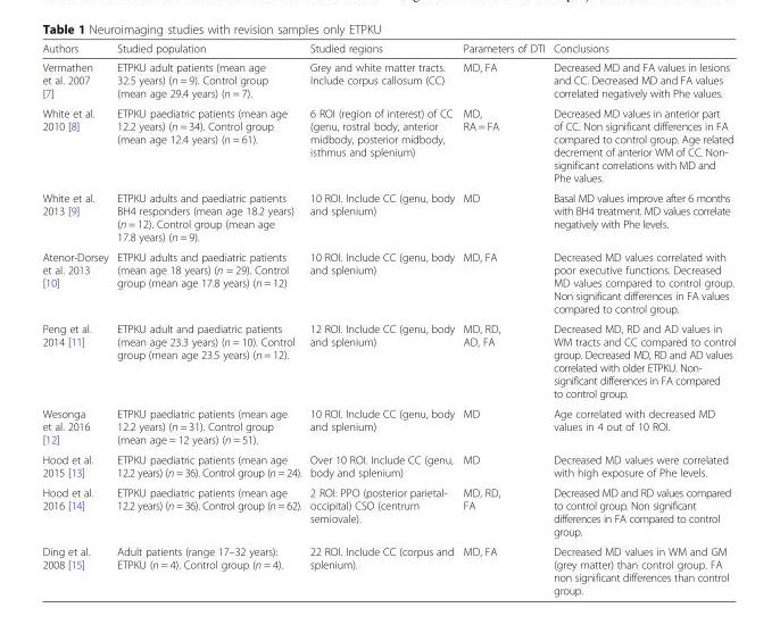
<table><thead><tr><td>Authors</td><td>Studied population</td><td>Studied regions</td><td>Parameters of DTI</td><td>Conclusions</td></tr></thead><tbody><tr><td>Vermathen et al. 2007 [7]</td><td>ETPKU adult patients (mean age 32.5 years) (n = 9). Control group (mean age 29.4 years) (n = 7).</td><td>Grey and white matter tracts. Include corpus callosum (CC)</td><td>MD, FA</td><td>Decreased MD and FA values in lesions and CC. Decreased MD and FA values correlated negatively with Phe values.</td></tr><tr><td>White et al. 2010 [8]</td><td>ETPKU paediatric patients (mean age 12.2 years) (n = 34). Control group (mean age 12.4 years) (n = 61).</td><td>6 ROI (region of interest) of CC (genu, rostral body, anterior midbody, posterior midbody, isthmus and splenium)</td><td>MD, RA = FA</td><td>Decreased MD values in anterior part of CC. Non significant differences in FA compared to control group. Age related decrement of anterior WM of CC. Non- significant correlations with MD and Phe values.</td></tr><tr><td>White et al. 2013 [9]</td><td>ETPKU adults and paediatric patients BH4 responders (mean age 18.2 years) (n = 12). Control group (mean age 17.8 years) (n = 9).</td><td>10 ROI. Include CC (genu, body and splenium)</td><td>MD</td><td>Basal MD values improve after 6 months with BH4 treatment. MD values correlate negatively with Phe levels.</td></tr><tr><td>Atenor-Dorsey et al. 2013 [10]</td><td>ETPKU adults and paediatric patients (mean age 18 years) (n = 29). Control group (mean age 17.8 years) (n = 12)</td><td>10 ROI. Include CC (genu, body and splenium)</td><td>MD, FA</td><td>Decreased MD values correlated with poor executive functions. Decreased MD values compared to control group. Non significant differences in FA values compared to control group.</td></tr><tr><td>Peng et al. 2014 [11]</td><td>ETPKU adult and paediatric patients (mean age 23.3 years) (n = 10). Control group (mean age 23.5 years) (n = 12).</td><td>12 ROI. Include CC (genu, body and splenium)</td><td>MD, RD, AD, FA</td><td>Decreased MD, RD and AD values in WM tracts and CC compared to control group. Decreased MD, RD and AD values correlated with older ETPKU. Non- significant differences in FA compared to control group.</td></tr><tr><td>Wesonga et al. 2016 [12]</td><td>ETPKU paediatric patients (mean age 12.2 years) (n = 31). Control group (mean age = 12 years) (n = 51).</td><td>10 ROI. Include CC (genu, body and splenium)</td><td>MD</td><td>Age correlated with decreased MD values in 4 out of 10 ROI.</td></tr><tr><td>Hood et al. 2015 [13]</td><td>ETPKU paediatric patients (mean age 12.2 years) (n = 36). Control group (n = 24).</td><td>Over 10 ROI. Include CC (genu, body and splenium)</td><td>MD</td><td>Decreased MD values were correlated with high exposure of Phe levels.</td></tr><tr><td>Hood et al. 2016 [14]</td><td>ETPKU paediatric patients (mean age 12.2 years) (n = 36). Control group (n = 62).</td><td>2 ROI: PPO (posterior parietal- occipital) CSO (centrum semiovale).</td><td>MD, RD, FA</td><td>Decreased MD and RD values compared to control group. Non significant differences in FA compared to control group.</td></tr><tr><td>Ding et al. 2008 [15]</td><td>Adult patients (range 17–32 years): ETPKU (n = 4). Control group (n = 4).</td><td>22 ROI. Include CC (corpus and splenium).</td><td>MD, FA</td><td>Decreased MD values in WM and GM (grey matter) than control group. FA non significant differences than control group.</td></tr></tbody></table>